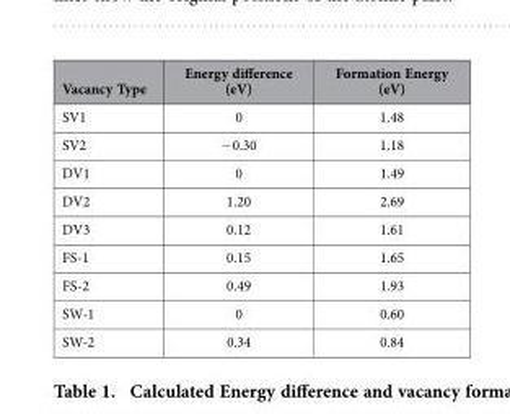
<table><thead><tr><td>Vacancy Type</td><td>Energy difference (eV)</td><td>Formation Energy (eV)</td></tr></thead><tbody><tr><td>SV1</td><td>0</td><td>1.48</td></tr><tr><td>SV2</td><td>− 0.30</td><td>1.18</td></tr><tr><td>DV1</td><td>0</td><td>1.49</td></tr><tr><td>DV2</td><td>1.20</td><td>2.69</td></tr><tr><td>DV3</td><td>0.12</td><td>1.61</td></tr><tr><td>FS-1</td><td>0.15</td><td>1.65</td></tr><tr><td>FS-2</td><td>0.49</td><td>1.93</td></tr><tr><td>SW-1</td><td>0</td><td>0.60</td></tr><tr><td>SW-2</td><td>0.34</td><td>0.84</td></tr></tbody></table>